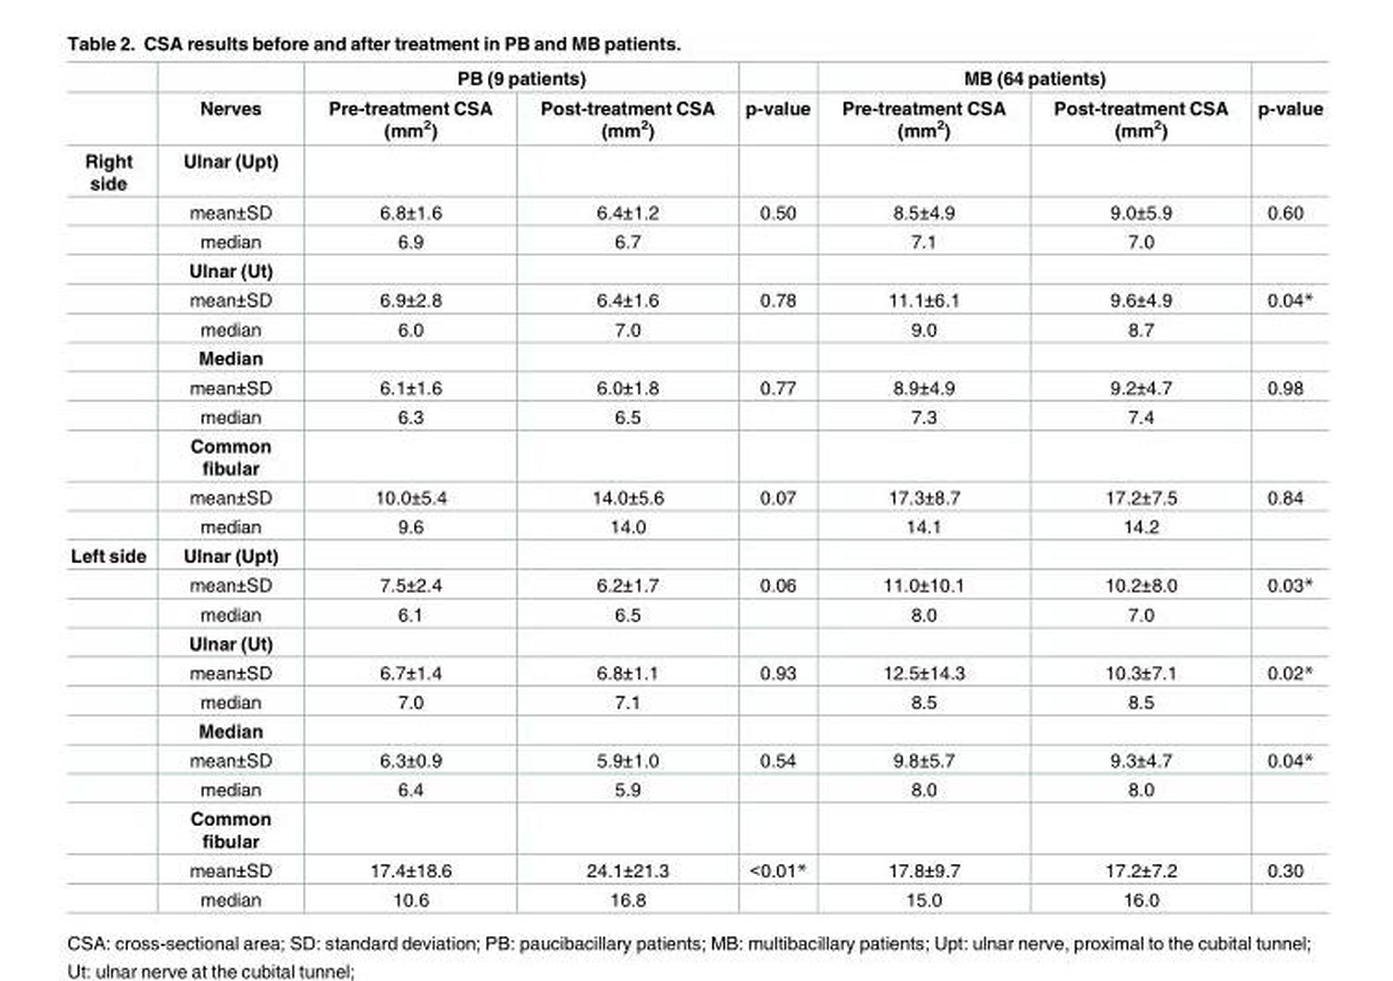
<table><thead><tr><td rowspan="2"></td><td rowspan="2">Nerves</td><td colspan="2">PB (9 patients)</td><td rowspan="2">p-value</td><td colspan="2">MB (64 patients)</td><td rowspan="2">p-value</td></tr><tr><td>Pre-treatment CSA (mm<sup>2</sup>)</td><td>Post-treatment CSA (mm<sup>2</sup>)</td><td>Pre-treatment CSA (mm<sup>2</sup>)</td><td>Post-treatment CSA (mm<sup>2</sup>)</td></tr></thead><tbody><tr><td rowspan="12">Right side</td><td>Ulnar (Upt)</td><td></td><td></td><td></td><td></td><td></td><td></td></tr><tr><td>mean±SD</td><td>6.8±1.6</td><td>6.4±1.2</td><td>0.50</td><td>8.5±4.9</td><td>9.0±5.9</td><td>0.60</td></tr><tr><td>median</td><td>6.9</td><td>6.7</td><td></td><td>7.1</td><td>7.0</td><td></td></tr><tr><td>Ulnar (Ut)</td><td></td><td></td><td></td><td></td><td></td><td></td></tr><tr><td>mean±SD</td><td>6.9±2.8</td><td>6.4±1.6</td><td>0.78</td><td>11.1±6.1</td><td>9.6±4.9</td><td>0.04*</td></tr><tr><td>median</td><td>6.0</td><td>7.0</td><td></td><td>9.0</td><td>8.7</td><td></td></tr><tr><td>Median</td><td></td><td></td><td></td><td></td><td></td><td></td></tr><tr><td>mean±SD</td><td>6.1±1.6</td><td>6.0±1.8</td><td>0.77</td><td>8.9±4.9</td><td>9.2±4.7</td><td>0.98</td></tr><tr><td>median</td><td>6.3</td><td>6.5</td><td></td><td>7.3</td><td>7.4</td><td></td></tr><tr><td>Common fibular</td><td></td><td></td><td></td><td></td><td></td><td></td></tr><tr><td>mean±SD</td><td>10.0±5.4</td><td>14.0±5.6</td><td>0.07</td><td>17.3±8.7</td><td>17.2±7.5</td><td>0.84</td></tr><tr><td>median</td><td>9.6</td><td>14.0</td><td></td><td>14.1</td><td>14.2</td><td></td></tr><tr><td rowspan="12">Left side</td><td>Ulnar (Upt)</td><td></td><td></td><td></td><td></td><td></td><td></td></tr><tr><td>mean±SD</td><td>7.5±2.4</td><td>6.2±1.7</td><td>0.06</td><td>11.0±10.1</td><td>10.2±8.0</td><td>0.03*</td></tr><tr><td>median</td><td>6.1</td><td>6.5</td><td></td><td>8.0</td><td>7.0</td><td></td></tr><tr><td>Ulnar (Ut)</td><td></td><td></td><td></td><td></td><td></td><td></td></tr><tr><td>mean±SD</td><td>6.7±1.4</td><td>6.8±1.1</td><td>0.93</td><td>12.5±14.3</td><td>10.3±7.1</td><td>0.02*</td></tr><tr><td>median</td><td>7.0</td><td>7.1</td><td></td><td>8.5</td><td>8.5</td><td></td></tr><tr><td>Median</td><td></td><td></td><td></td><td></td><td></td><td></td></tr><tr><td>mean±SD</td><td>6.3±0.9</td><td>5.9±1.0</td><td>0.54</td><td>9.8±5.7</td><td>9.3±4.7</td><td>0.04*</td></tr><tr><td>median</td><td>6.4</td><td>5.9</td><td></td><td>8.0</td><td>8.0</td><td></td></tr><tr><td>Common fibular</td><td></td><td></td><td></td><td></td><td></td><td></td></tr><tr><td>mean±SD</td><td>17.4±18.6</td><td>24.1±21.3</td><td>&lt;0.01*</td><td>17.8±9.7</td><td>17.2±7.2</td><td>0.30</td></tr><tr><td>median</td><td>10.6</td><td>16.8</td><td></td><td>15.0</td><td>16.0</td><td></td></tr></tbody></table>